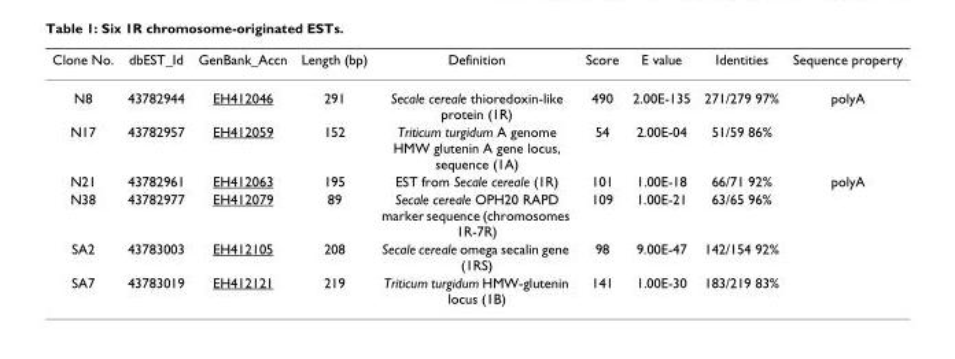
<table><thead><tr><td>Clone No.</td><td>dbEST_Id</td><td>GenBank_Accn</td><td>Length (bp)</td><td>Definition</td><td>Score</td><td>E value</td><td>Identities</td><td>Sequence property</td></tr></thead><tbody><tr><td>N8</td><td>43782944</td><td>EH412046</td><td>291</td><td>Secale cereale thioredoxin-like protein (1R)</td><td>490</td><td>2.00E-135</td><td>271/279 97%</td><td>polyA</td></tr><tr><td>N17</td><td>43782957</td><td>EH412059</td><td>152</td><td>Triticum turgidum A genome HMW glutenin A gene locus, sequence (1A)</td><td>54</td><td>2.00E-04</td><td>51/59 86%</td><td></td></tr><tr><td>N21</td><td>43782961</td><td>EH412063</td><td>195</td><td>EST from Secale cereale (1R)</td><td>101</td><td>1.00E-18</td><td>66/71 92%</td><td>polyA</td></tr><tr><td>N38</td><td>43782977</td><td>EH412079</td><td>89</td><td>Secale cereale OPH20 RAPD marker sequence (chromosomes 1R-7R)</td><td>109</td><td>1.00E-21</td><td>63/65 96%</td><td></td></tr><tr><td>SA2</td><td>43783003</td><td>EH412105</td><td>208</td><td>Secale cereale omega secalin gene (1RS)</td><td>98</td><td>9.00E-47</td><td>142/154 92%</td><td></td></tr><tr><td>SA7</td><td>43783019</td><td>EH412121</td><td>219</td><td>Triticum turgidum HMW-glutenin locus (1B)</td><td>141</td><td>1.00E-30</td><td>183/219 83%</td><td></td></tr></tbody></table>